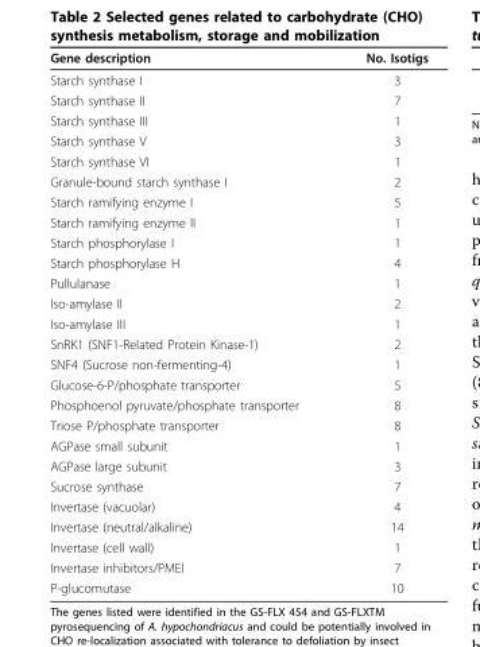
<table><thead><tr><td>Gene description</td><td>No. Isotigs</td></tr></thead><tbody><tr><td>Starch synthase I</td><td>3</td></tr><tr><td>Starch synthase II</td><td>7</td></tr><tr><td>Starch synthase III</td><td>1</td></tr><tr><td>Starch synthase V</td><td>3</td></tr><tr><td>Starch synthase VI</td><td>1</td></tr><tr><td>Granule-bound starch synthase I</td><td>2</td></tr><tr><td>Starch ramifying enzyme I</td><td>5</td></tr><tr><td>Starch ramifying enzyme II</td><td>1</td></tr><tr><td>Starch phosphorylase I</td><td>1</td></tr><tr><td>Starch phosphorylase H</td><td>4</td></tr><tr><td>Pullulanase</td><td>1</td></tr><tr><td>Iso-amylase II</td><td>2</td></tr><tr><td>Iso-amylase III</td><td>1</td></tr><tr><td>SnRK1 (SNF1-Related Protein Kinase-1)</td><td>2</td></tr><tr><td>SNF4 (Sucrose non-fermenting-4)</td><td>1</td></tr><tr><td>Glucose-6-P/phosphate transporter</td><td>5</td></tr><tr><td>Phosphoenol pyruvate/phosphate transporter</td><td>8</td></tr><tr><td>Triose P/phosphate transporter</td><td>8</td></tr><tr><td>AGPase small subunit</td><td>1</td></tr><tr><td>AGPase large subunit</td><td>3</td></tr><tr><td>Sucrose synthase</td><td>7</td></tr><tr><td>Invertase (vacuolar)</td><td>4</td></tr><tr><td>Invertase (neutral/alkaline)</td><td>14</td></tr><tr><td>Invertase (cell wall)</td><td>1</td></tr><tr><td>Invertase inhibitors/PMEI</td><td>7</td></tr><tr><td>P-glucomutase</td><td>10</td></tr></tbody></table>